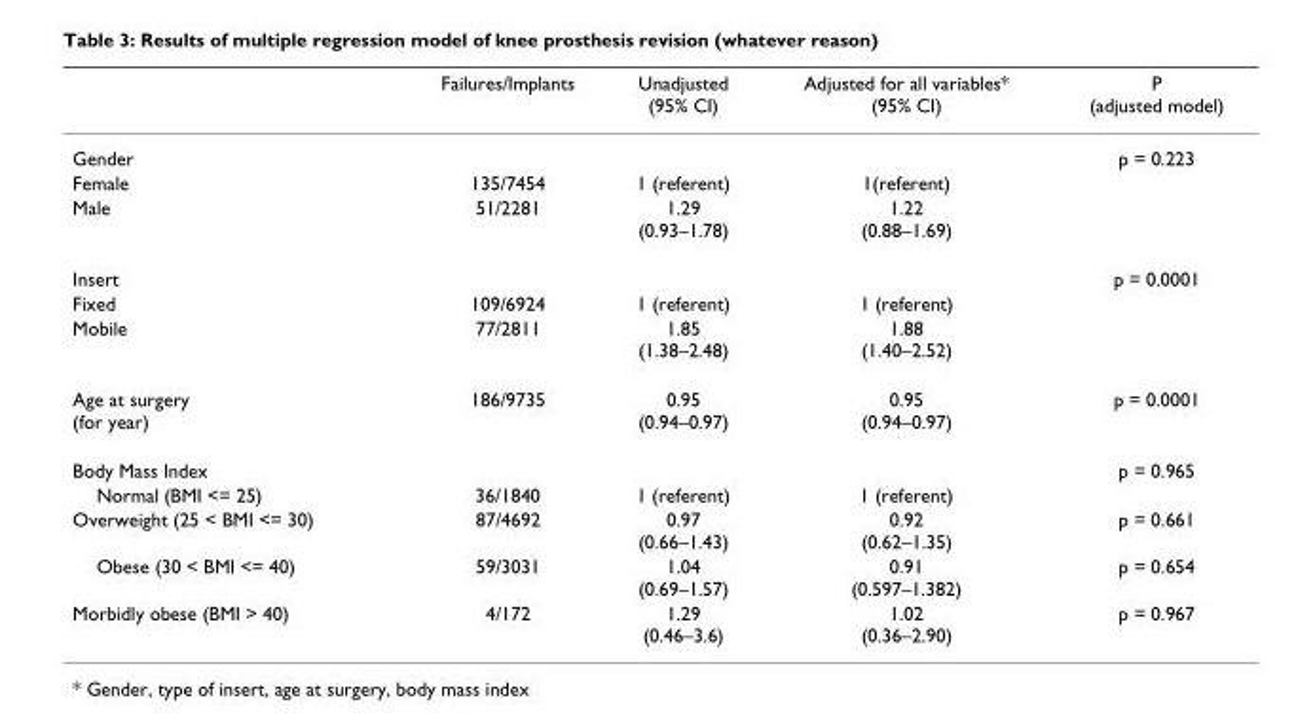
<table><thead><tr><td></td><td>Failures/Implants</td><td>Unadjusted (95% CI)</td><td>Adjusted for all variables* (95% CI)</td><td>P (adjusted model)</td></tr></thead><tbody><tr><td>Gender</td><td></td><td></td><td></td><td>p = 0.223</td></tr><tr><td>Female</td><td>135/7454</td><td>1 (referent)</td><td>1(referent)</td><td></td></tr><tr><td>Male</td><td>51/2281</td><td>1.29 (0.93–1.78)</td><td>1.22 (0.88–1.69)</td><td></td></tr><tr><td>Insert</td><td></td><td></td><td></td><td>p = 0.0001</td></tr><tr><td>Fixed</td><td>109/6924</td><td>1 (referent)</td><td>1 (referent)</td><td></td></tr><tr><td>Mobile</td><td>77/2811</td><td>1.85 (1.38–2.48)</td><td>1.88 (1.40–2.52)</td><td></td></tr><tr><td>Age at surgery (for year)</td><td>186/9735</td><td>0.95 (0.94–0.97)</td><td>0.95 (0.94–0.97)</td><td>p = 0.0001</td></tr><tr><td>Body Mass Index</td><td></td><td></td><td></td><td>p = 0.965</td></tr><tr><td>Normal (BMI &lt;= 25)</td><td>36/1840</td><td>1 (referent)</td><td>1 (referent)</td><td></td></tr><tr><td>Overweight (25 &lt; BMI &lt;= 30)</td><td>87/4692</td><td>0.97 (0.66–1.43)</td><td>0.92 (0.62–1.35)</td><td>p = 0.661</td></tr><tr><td>Obese (30 &lt; BMI &lt;= 40)</td><td>59/3031</td><td>1.04 (0.69–1.57)</td><td>0.91 (0.597–1.382)</td><td>p = 0.654</td></tr><tr><td>Morbidly obese (BMI &gt; 40)</td><td>4/172</td><td>1.29 (0.46–3.6)</td><td>1.02 (0.36–2.90)</td><td>p = 0.967</td></tr></tbody></table>